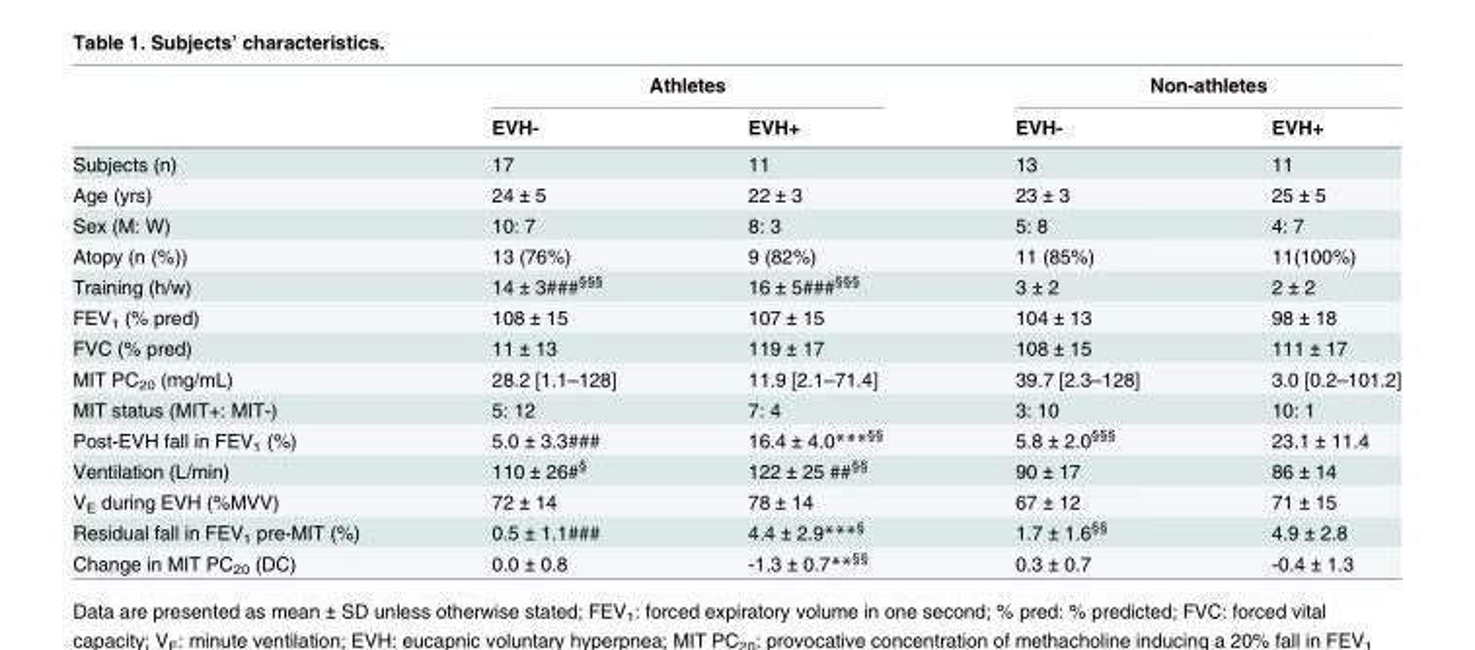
<table><thead><tr><td rowspan="2"></td><td colspan="2">Athletes</td><td colspan="2">Non-athletes</td></tr><tr><td>EVH-</td><td>EVH+</td><td>EVH-</td><td>EVH+</td></tr></thead><tbody><tr><td>Subjects (n)</td><td>17</td><td>11</td><td>13</td><td>11</td></tr><tr><td>Age (yrs)</td><td>24 ± 5</td><td>22 ± 3</td><td>23 ± 3</td><td>25 ± 5</td></tr><tr><td>Sex (M: W)</td><td>10: 7</td><td>8: 3</td><td>5: 8</td><td>4: 7</td></tr><tr><td>Atopy (n (%))</td><td>13 (76%)</td><td>9 (82%)</td><td>11 (85%)</td><td>11(100%)</td></tr><tr><td>Training (h/w)</td><td>14 ± 3###<sup>§§§</sup></td><td>16 ± 5###<sup>§§§</sup></td><td>3 ± 2</td><td>2 ± 2</td></tr><tr><td>FEV<sub>1</sub> (% pred)</td><td>108 ± 15</td><td>107 ± 15</td><td>104 ± 13</td><td>98 ± 18</td></tr><tr><td>FVC (% pred)</td><td>11 ± 13</td><td>119 ± 17</td><td>108 ± 15</td><td>111 ± 17</td></tr><tr><td>MIT PC<sub>20</sub> (mg/mL)</td><td>28.2 [1.1–128]</td><td>11.9 [2.1–71.4]</td><td>39.7 [2.3–128]</td><td>3.0 [0.2–101.2]</td></tr><tr><td>MIT status (MIT+: MIT-)</td><td>5: 12</td><td>7: 4</td><td>3: 10</td><td>10: 1</td></tr><tr><td>Post-EVH fall in FEV<sub>1</sub> (%)</td><td>5.0 ± 3.3###</td><td>16.4 ± 4.0***<sup>§§</sup></td><td>5.8 ± 2.0<sup>§§§</sup></td><td>23.1 ± 11.4</td></tr><tr><td>Ventilation (L/min)</td><td>110 ± 26#<sup>§</sup></td><td>122 ± 25 ##<sup>§§</sup></td><td>90 ± 17</td><td>86 ± 14</td></tr><tr><td>V<sub>E</sub> during EVH (%MVV)</td><td>72 ± 14</td><td>78 ± 14</td><td>67 ± 12</td><td>71 ± 15</td></tr><tr><td>Residual fall in FEV<sub>1</sub> pre-MIT (%)</td><td>0.5 ± 1.1###</td><td>4.4 ± 2.9***<sup>§</sup></td><td>1.7 ± 1.6<sup>§§</sup></td><td>4.9 ± 2.8</td></tr><tr><td>Change in MIT PC<sub>20</sub> (DC)</td><td>0.0 ± 0.8</td><td>-1.3 ± 0.7**<sup>§§</sup></td><td>0.3 ± 0.7</td><td>-0.4 ± 1.3</td></tr></tbody></table>